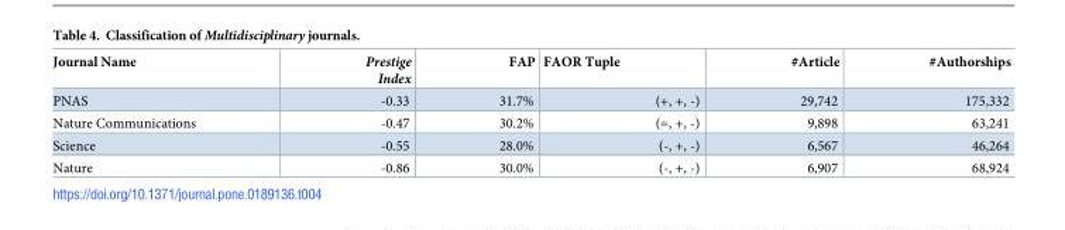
<table><thead><tr><td>Journal Name</td><td>Prestige Index</td><td>FAP</td><td>FAOR Tuple</td><td>#Article</td><td>#Authorships</td></tr></thead><tbody><tr><td>PNAS</td><td>-0.33</td><td>31.7%</td><td>(+, +, -)</td><td>29,742</td><td>175,332</td></tr><tr><td>Nature Communications</td><td>-0.47</td><td>30.2%</td><td>(=, +, -)</td><td>9,898</td><td>63,241</td></tr><tr><td>Science</td><td>-0.55</td><td>28.0%</td><td>(-, +, -)</td><td>6,567</td><td>46,264</td></tr><tr><td>Nature</td><td>-0.86</td><td>30.0%</td><td>(-, +, -)</td><td>6,907</td><td>68,924</td></tr></tbody></table>